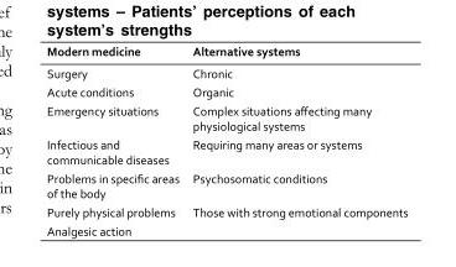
<table><thead><tr><td>Modern medicine</td><td>Alternative systems</td></tr></thead><tbody><tr><td>Surgery</td><td>Chronic</td></tr><tr><td>Acute conditions</td><td>Organic</td></tr><tr><td>Emergency situations</td><td>Complex situations affecting many physiological systems</td></tr><tr><td>Infectious and communicable diseases</td><td>Requiring many areas or systems</td></tr><tr><td>Problems in specific areas of the body</td><td>Psychosomatic conditions</td></tr><tr><td>Purely physical problems</td><td>Those with strong emotional components</td></tr></tbody></table>